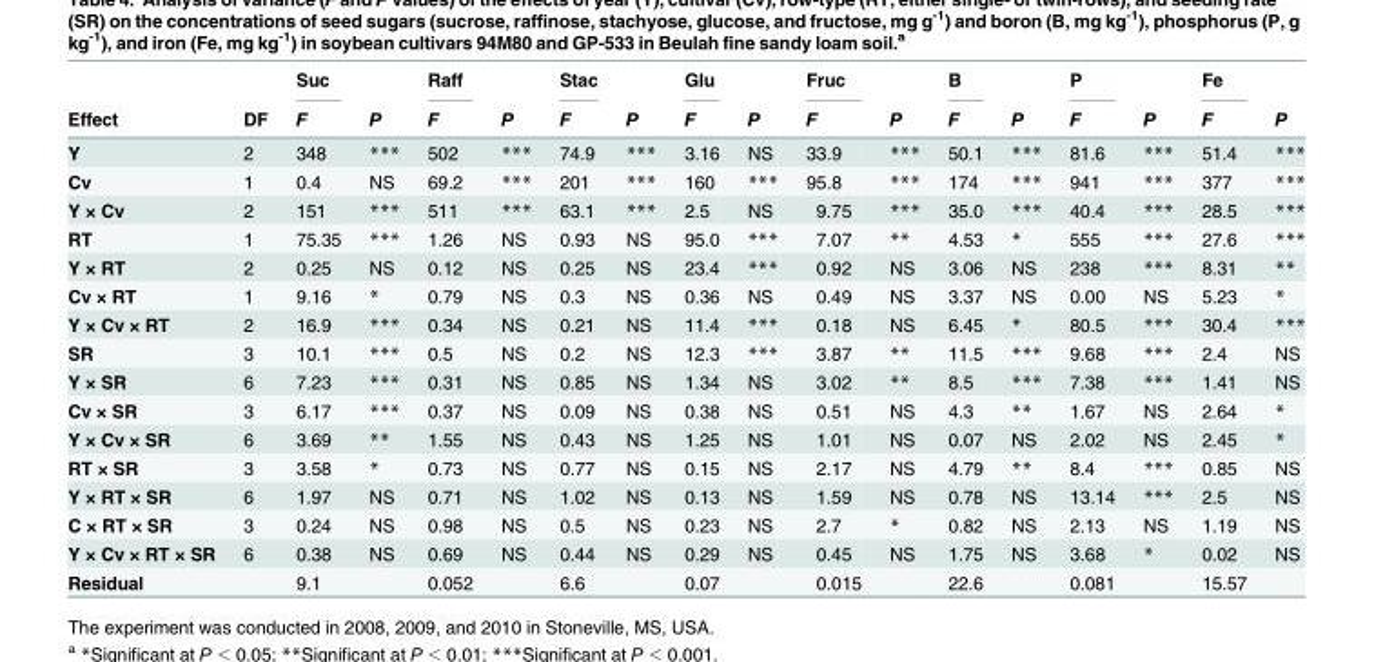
<table><thead><tr><td rowspan="2">Effect</td><td rowspan="2">DF</td><td rowspan="2">Suc F</td><td rowspan="2">P</td><td rowspan="2">Raff F</td><td rowspan="2">P</td><td rowspan="2">Stac F</td><td rowspan="2">P</td><td rowspan="2">Glu F</td><td rowspan="2">P</td><td rowspan="2">Fruc F</td><td rowspan="2">P</td><td rowspan="2">B F</td><td rowspan="2">P</td><td rowspan="2">P F</td><td rowspan="2">P</td><td rowspan="2">Fe F</td><td rowspan="2">P</td></tr><tr></tr></thead><tbody><tr><td>Y</td><td>2</td><td>348</td><td>***</td><td>502</td><td>***</td><td>74.9</td><td>***</td><td>3.16</td><td>NS</td><td>33.9</td><td>***</td><td>50.1</td><td>***</td><td>81.6</td><td>***</td><td>51.4</td><td>***</td></tr><tr><td>Cv</td><td>1</td><td>0.4</td><td>NS</td><td>69.2</td><td>***</td><td>201</td><td>***</td><td>160</td><td>***</td><td>95.8</td><td>***</td><td>174</td><td>***</td><td>941</td><td>***</td><td>377</td><td>***</td></tr><tr><td>Y × Cv</td><td>2</td><td>151</td><td>***</td><td>511</td><td>***</td><td>63.1</td><td>***</td><td>2.5</td><td>NS</td><td>9.75</td><td>***</td><td>35.0</td><td>***</td><td>40.4</td><td>***</td><td>28.5</td><td>***</td></tr><tr><td>RT</td><td>1</td><td>75.35</td><td>***</td><td>1.26</td><td>NS</td><td>0.93</td><td>NS</td><td>95.0</td><td>***</td><td>7.07</td><td>**</td><td>4.53</td><td>*</td><td>555</td><td>***</td><td>27.6</td><td>***</td></tr><tr><td>Y × RT</td><td>2</td><td>0.25</td><td>NS</td><td>0.12</td><td>NS</td><td>0.25</td><td>NS</td><td>23.4</td><td>***</td><td>0.92</td><td>NS</td><td>3.06</td><td>NS</td><td>238</td><td>***</td><td>8.31</td><td>**</td></tr><tr><td>Cv × RT</td><td>1</td><td>9.16</td><td>*</td><td>0.79</td><td>NS</td><td>0.3</td><td>NS</td><td>0.36</td><td>NS</td><td>0.49</td><td>NS</td><td>3.37</td><td>NS</td><td>0.00</td><td>NS</td><td>5.23</td><td>*</td></tr><tr><td>Y × Cv × RT</td><td>2</td><td>16.9</td><td>***</td><td>0.34</td><td>NS</td><td>0.21</td><td>NS</td><td>11.4</td><td>***</td><td>0.18</td><td>NS</td><td>6.45</td><td>*</td><td>80.5</td><td>***</td><td>30.4</td><td>***</td></tr><tr><td>SR</td><td>3</td><td>10.1</td><td>***</td><td>0.5</td><td>NS</td><td>0.2</td><td>NS</td><td>12.3</td><td>***</td><td>3.87</td><td>**</td><td>11.5</td><td>***</td><td>9.68</td><td>***</td><td>2.4</td><td>NS</td></tr><tr><td>Y × SR</td><td>6</td><td>7.23</td><td>***</td><td>0.31</td><td>NS</td><td>0.85</td><td>NS</td><td>1.34</td><td>NS</td><td>3.02</td><td>**</td><td>8.5</td><td>***</td><td>7.38</td><td>***</td><td>1.41</td><td>NS</td></tr><tr><td>Cv × SR</td><td>3</td><td>6.17</td><td>***</td><td>0.37</td><td>NS</td><td>0.09</td><td>NS</td><td>0.38</td><td>NS</td><td>0.51</td><td>NS</td><td>4.3</td><td>**</td><td>1.67</td><td>NS</td><td>2.64</td><td>*</td></tr><tr><td>Y × Cv × SR</td><td>6</td><td>3.69</td><td>**</td><td>1.55</td><td>NS</td><td>0.43</td><td>NS</td><td>1.25</td><td>NS</td><td>1.01</td><td>NS</td><td>0.07</td><td>NS</td><td>2.02</td><td>NS</td><td>2.45</td><td>*</td></tr><tr><td>RT × SR</td><td>3</td><td>3.58</td><td>*</td><td>0.73</td><td>NS</td><td>0.77</td><td>NS</td><td>0.15</td><td>NS</td><td>2.17</td><td>NS</td><td>4.79</td><td>**</td><td>8.4</td><td>***</td><td>0.85</td><td>NS</td></tr><tr><td>Y × RT × SR</td><td>6</td><td>1.97</td><td>NS</td><td>0.71</td><td>NS</td><td>1.02</td><td>NS</td><td>0.13</td><td>NS</td><td>1.59</td><td>NS</td><td>0.78</td><td>NS</td><td>13.14</td><td>***</td><td>2.5</td><td>NS</td></tr><tr><td>C × RT × SR</td><td>3</td><td>0.24</td><td>NS</td><td>0.98</td><td>NS</td><td>0.5</td><td>NS</td><td>0.23</td><td>NS</td><td>2.7</td><td>*</td><td>0.82</td><td>NS</td><td>2.13</td><td>NS</td><td>1.19</td><td>NS</td></tr><tr><td>Y × Cv × RT × SR</td><td>6</td><td>0.38</td><td>NS</td><td>0.69</td><td>NS</td><td>0.44</td><td>NS</td><td>0.29</td><td>NS</td><td>0.45</td><td>NS</td><td>1.75</td><td>NS</td><td>3.68</td><td>*</td><td>0.02</td><td>NS</td></tr><tr><td>Residual</td><td></td><td>9.1</td><td></td><td>0.052</td><td></td><td>6.6</td><td></td><td>0.07</td><td></td><td>0.015</td><td></td><td>22.6</td><td></td><td>0.081</td><td></td><td>15.57</td><td></td></tr></tbody></table>